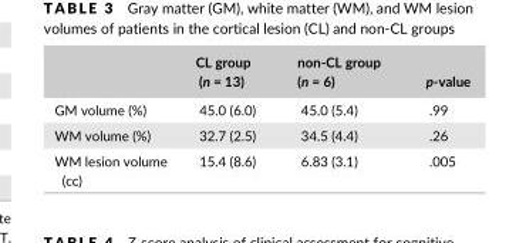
<table><thead><tr><td></td><td>CL group (n = 13)</td><td>non- CL group (n = 6)</td><td>p- value</td></tr></thead><tbody><tr><td>GM volume (%)</td><td>45.0 (6.0)</td><td>45.0 (5.4)</td><td>.99</td></tr><tr><td>WM volume (%)</td><td>32.7 (2.5)</td><td>34.5 (4.4)</td><td>.26</td></tr><tr><td>WM lesion volume (cc)</td><td>15.4 (8.6)</td><td>6.83 (3.1)</td><td>.005</td></tr></tbody></table>